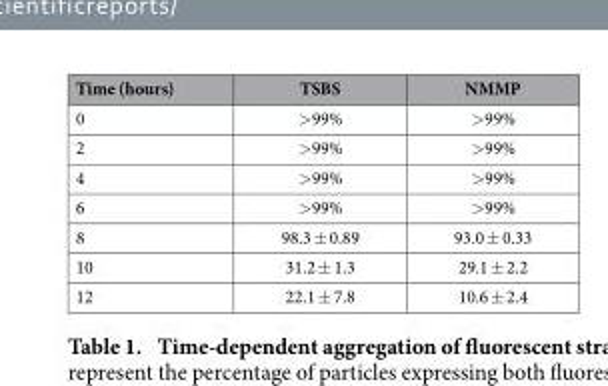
<table><thead><tr><td>Time (hours)</td><td>TSBS</td><td>NMMP</td></tr></thead><tbody><tr><td>0</td><td>&gt; 99%</td><td>&gt; 99%</td></tr><tr><td>2</td><td>&gt; 99%</td><td>&gt; 99%</td></tr><tr><td>4</td><td>&gt; 99%</td><td>&gt; 99%</td></tr><tr><td>6</td><td>&gt; 99%</td><td>&gt; 99%</td></tr><tr><td>8</td><td>98.3 ± 0.89</td><td>93.0 ± 0.33</td></tr><tr><td>10</td><td>31.2 ± 1.3</td><td>29.1 ± 2.2</td></tr><tr><td>12</td><td>22.1 ± 7.8</td><td>10.6 ± 2.4</td></tr></tbody></table>